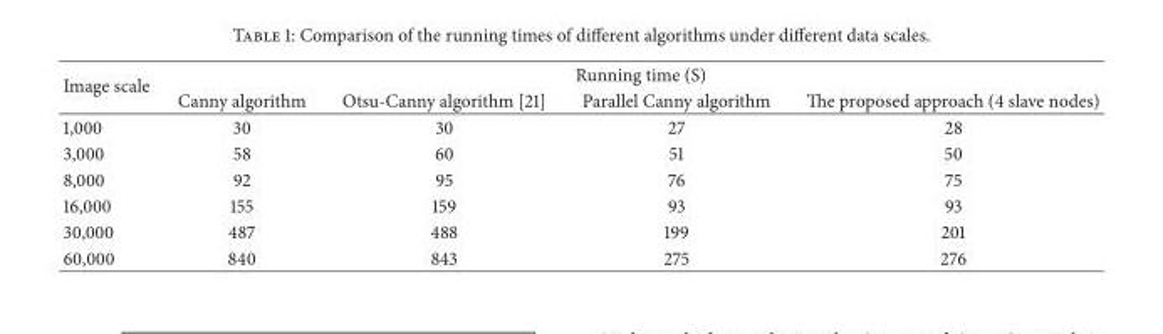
<table><thead><tr><td rowspan="2">Image scale</td><td colspan="4">Running time (S)</td></tr><tr><td>Canny algorithm</td><td>Otsu-Canny algorithm [21]</td><td>Parallel Canny algorithm</td><td>The proposed approach (4 slave nodes)</td></tr></thead><tbody><tr><td>1,000</td><td>30</td><td>30</td><td>27</td><td>28</td></tr><tr><td>3,000</td><td>58</td><td>60</td><td>51</td><td>50</td></tr><tr><td>8,000</td><td>92</td><td>95</td><td>76</td><td>75</td></tr><tr><td>16,000</td><td>155</td><td>159</td><td>93</td><td>93</td></tr><tr><td>30,000</td><td>487</td><td>488</td><td>199</td><td>201</td></tr><tr><td>60,000</td><td>840</td><td>843</td><td>275</td><td>276</td></tr></tbody></table>